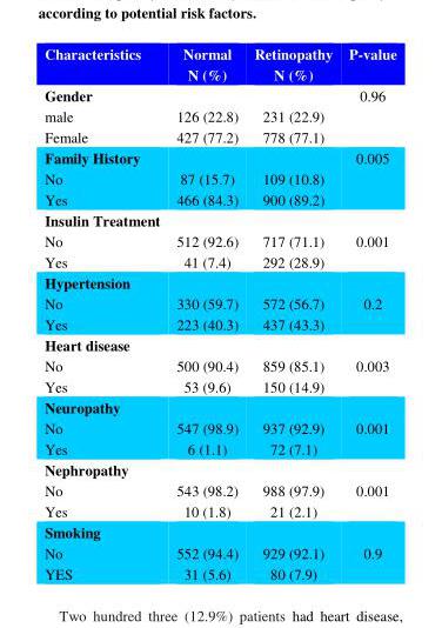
<table><thead><tr><td>P-value</td><td>Retinopathy N (%)</td><td>Normal N (%)</td><td>Characteristics</td></tr></thead><tbody><tr><td>0.96</td><td>231 (22.9) 778 (77.1)</td><td>126 (22.8) 427 (77.2)</td><td>Gender male Female</td></tr><tr><td>0.005</td><td>109 (10.8) 900 (89.2)</td><td>87 (15.7) 466 (84.3)</td><td>Family History No Yes</td></tr><tr><td>0.001</td><td>717 (71.1) 292 (28.9)</td><td>512 (92.6) 41 (7.4)</td><td>Insulin Treatment No Yes</td></tr><tr><td>0.2</td><td>572 (56.7) 437 (43.3)</td><td>330 (59.7) 223 (40.3)</td><td>Hypertension No Yes</td></tr><tr><td>0.003</td><td>859 (85.1) 150 (14.9)</td><td>500 (90.4) 53 (9.6)</td><td>Heart disease No Yes</td></tr><tr><td>0.001</td><td>937 (92.9) 72 (7.1)</td><td>547 (98.9) 6 (1.1)</td><td>Neuropathy No Yes</td></tr><tr><td>0.001</td><td>988 (97.9) 21 (2.1)</td><td>543 (98.2) 10 (1.8)</td><td>Nephropathy No Yes</td></tr><tr><td>0.9</td><td>929 (92.1) 80 (7.9)</td><td>552 (94.4) 31 (5.6)</td><td>Smoking No YES</td></tr></tbody></table>